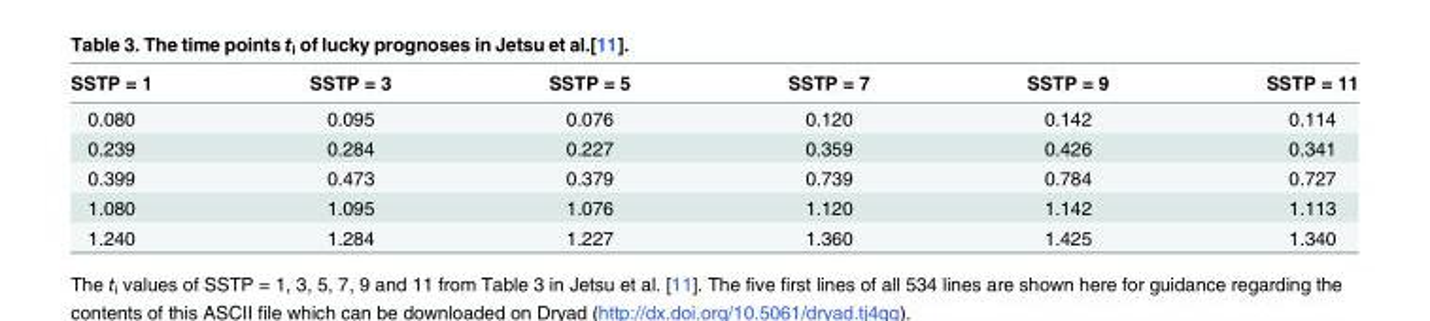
<table><thead><tr><td>SSTP = 1</td><td>SSTP = 3</td><td>SSTP = 5</td><td>SSTP = 7</td><td>SSTP = 9</td><td>SSTP = 11</td></tr></thead><tbody><tr><td>0.080</td><td>0.095</td><td>0.076</td><td>0.120</td><td>0.142</td><td>0.114</td></tr><tr><td>0.239</td><td>0.284</td><td>0.227</td><td>0.359</td><td>0.426</td><td>0.341</td></tr><tr><td>0.399</td><td>0.473</td><td>0.379</td><td>0.739</td><td>0.784</td><td>0.727</td></tr><tr><td>1.080</td><td>1.095</td><td>1.076</td><td>1.120</td><td>1.142</td><td>1.113</td></tr><tr><td>1.240</td><td>1.284</td><td>1.227</td><td>1.360</td><td>1.425</td><td>1.340</td></tr></tbody></table>